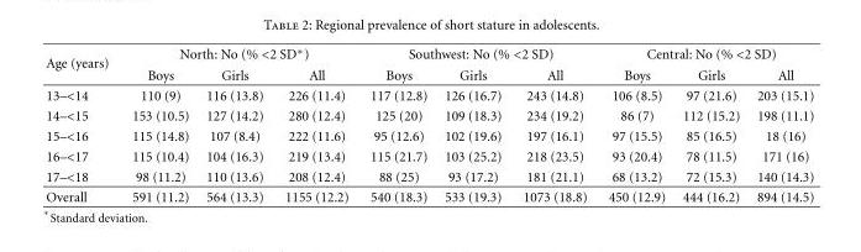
<table><thead><tr><td rowspan="2">Age (years)</td><td colspan="3">North: No (% &lt;2 SD∗)</td><td colspan="3">Southwest: No (% &lt;2 SD)</td><td colspan="3">Central: No (% &lt;2 SD)</td></tr><tr><td>Boys</td><td>Girls</td><td>All</td><td>Boys</td><td>Girls</td><td>All</td><td>Boys</td><td>Girls</td><td>All</td></tr></thead><tbody><tr><td>13–&lt;14</td><td>110 (9)</td><td>116 (13.8)</td><td>226 (11.4)</td><td>117 (12.8)</td><td>126 (16.7)</td><td>243 (14.8)</td><td>106 (8.5)</td><td>97 (21.6)</td><td>203 (15.1)</td></tr><tr><td>14–&lt;15</td><td>153 (10.5)</td><td>127 (14.2)</td><td>280 (12.4)</td><td>125 (20)</td><td>109 (18.3)</td><td>234 (19.2)</td><td>86 (7)</td><td>112 (15.2)</td><td>198 (11.1)</td></tr><tr><td>15–&lt;16</td><td>115 (14.8)</td><td>107 (8.4)</td><td>222 (11.6)</td><td>95 (12.6)</td><td>102 (19.6)</td><td>197 (16.1)</td><td>97 (15.5)</td><td>85 (16.5)</td><td>18 (16)</td></tr><tr><td>16–&lt;17</td><td>115 (10.4)</td><td>104 (16.3)</td><td>219 (13.4)</td><td>115 (21.7)</td><td>103 (25.2)</td><td>218 (23.5)</td><td>93 (20.4)</td><td>78 (11.5)</td><td>171 (16)</td></tr><tr><td>17–&lt;18</td><td>98 (11.2)</td><td>110 (13.6)</td><td>208 (12.4)</td><td>88 (25)</td><td>93 (17.2)</td><td>181 (21.1)</td><td>68 (13.2)</td><td>72 (15.3)</td><td>140 (14.3)</td></tr><tr><td>Overall</td><td>591 (11.2)</td><td>564 (13.3)</td><td>1155 (12.2)</td><td>540 (18.3)</td><td>533 (19.3)</td><td>1073 (18.8)</td><td>450 (12.9)</td><td>444 (16.2)</td><td>894 (14.5)</td></tr></tbody></table>